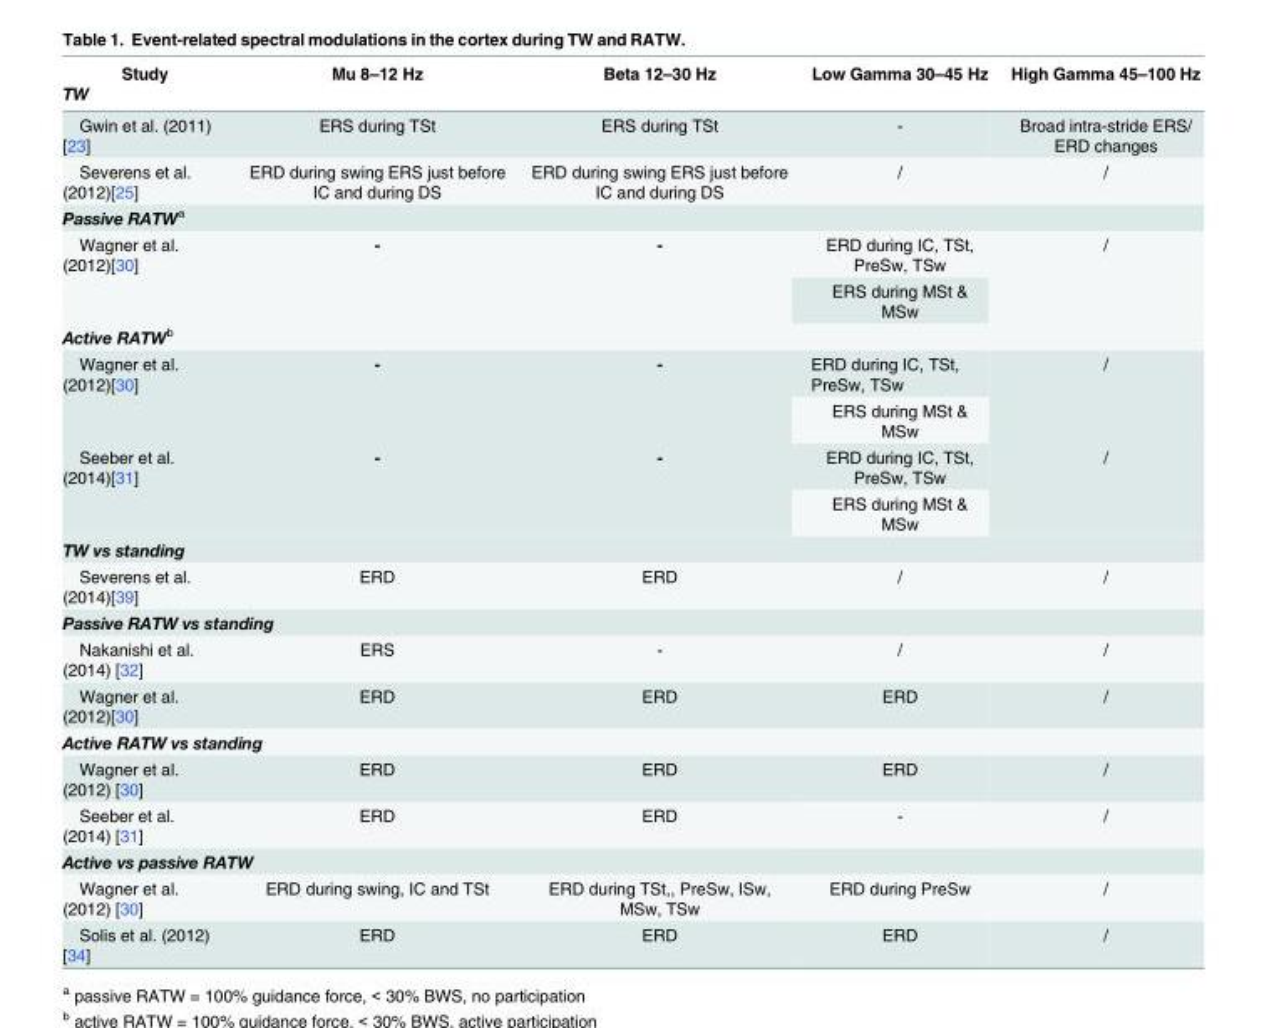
<table><thead><tr><td>Study</td><td>Mu 8–12 Hz</td><td>Beta 12–30 Hz</td><td>Low Gamma 30–45 Hz</td><td>High Gamma 45–100 Hz</td></tr><tr><td colspan="5">TW</td></tr></thead><tbody><tr><td>Gwin et al. (2011) [23]</td><td>ERS during TSt</td><td>ERS during TSt</td><td>-</td><td>Broad intra-stride ERS/ ERD changes</td></tr><tr><td>Severens et al. (2012)[25]</td><td>ERD during swing ERS just before IC and during DS</td><td>ERD during swing ERS just before IC and during DS</td><td>/</td><td>/</td></tr><tr><td colspan="5">Passive RATW<sup>a</sup></td></tr><tr><td rowspan="2">Wagner et al. (2012)[30]</td><td rowspan="2">-</td><td rowspan="2">-</td><td>ERD during IC, TSt, PreSw, TSw</td><td rowspan="2">/</td></tr><tr><td>ERS during MSt &amp; MSw</td></tr><tr><td colspan="5">Active RATW<sup>b</sup></td></tr><tr><td rowspan="2">Wagner et al. (2012)[30]</td><td rowspan="2">-</td><td rowspan="2">-</td><td>ERD during IC, TSt, PreSw, TSw</td><td rowspan="2">/</td></tr><tr><td>ERS during MSt &amp; MSw</td></tr><tr><td rowspan="2">Seeber et al. (2014)[31]</td><td rowspan="2">-</td><td rowspan="2">-</td><td>ERD during IC, TSt, PreSw, TSw</td><td rowspan="2">/</td></tr><tr><td>ERS during MSt &amp; MSw</td></tr><tr><td colspan="5">TW vs standing</td></tr><tr><td>Severens et al. (2014)[39]</td><td>ERD</td><td>ERD</td><td>/</td><td>/</td></tr><tr><td colspan="5">Passive RATW vs standing</td></tr><tr><td>Nakanishi et al. (2014) [32]</td><td>ERS</td><td>-</td><td>/</td><td>/</td></tr><tr><td>Wagner et al. (2012)[30]</td><td>ERD</td><td>ERD</td><td>ERD</td><td>/</td></tr><tr><td colspan="5">Active RATW vs standing</td></tr><tr><td>Wagner et al. (2012) [30]</td><td>ERD</td><td>ERD</td><td>ERD</td><td>/</td></tr><tr><td>Seeber et al. (2014) [31]</td><td>ERD</td><td>ERD</td><td>-</td><td>/</td></tr><tr><td colspan="5">Active vs passive RATW</td></tr><tr><td>Wagner et al. (2012) [30]</td><td>ERD during swing, IC and TSt</td><td>ERD during TSt,, PreSw, ISw, MSw, TSw</td><td>ERD during PreSw</td><td>/</td></tr><tr><td>Solis et al. (2012) [34]</td><td>ERD</td><td>ERD</td><td>ERD</td><td>/</td></tr></tbody></table>